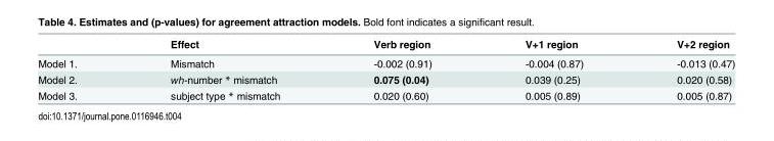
<table><thead><tr><td></td><td>Effect</td><td>Verb region</td><td>V+1 region</td><td>V+2 region</td></tr></thead><tbody><tr><td>Model 1.</td><td>Mismatch</td><td>-0.002 (0.91)</td><td>-0.004 (0.87)</td><td>-0.013 (0.47)</td></tr><tr><td>Model 2.</td><td>wh-number * mismatch</td><td>0.075 (0.04)</td><td>0.039 (0.25)</td><td>0.020 (0.58)</td></tr><tr><td>Model 3.</td><td>subject type * mismatch</td><td>0.020 (0.60)</td><td>0.005 (0.89)</td><td>0.005 (0.87)</td></tr></tbody></table>